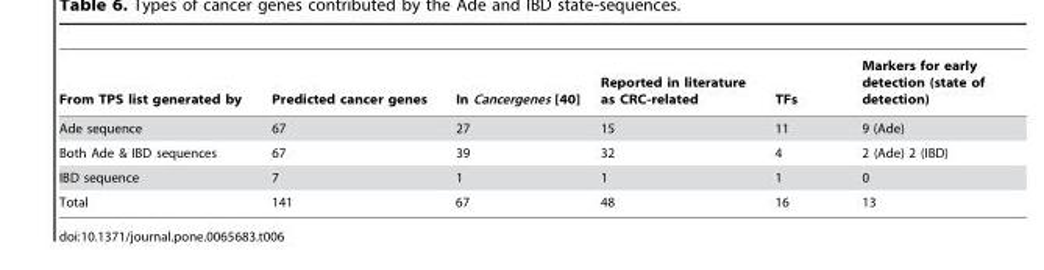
<table><thead><tr><td>From TPS list generated by</td><td>Predicted cancer genes</td><td>In Cancergenes [40]</td><td>Reported in literature as CRC-related</td><td>TFs</td><td>Markers for early detection (state of detection)</td></tr></thead><tbody><tr><td>Ade sequence</td><td>67</td><td>27</td><td>15</td><td>11</td><td>9 (Ade)</td></tr><tr><td>Both Ade &amp; IBD sequences</td><td>67</td><td>39</td><td>32</td><td>4</td><td>2 (Ade) 2 (IBD)</td></tr><tr><td>IBD sequence</td><td>7</td><td>1</td><td>1</td><td>1</td><td>0</td></tr><tr><td>Total</td><td>141</td><td>67</td><td>48</td><td>16</td><td>13</td></tr></tbody></table>